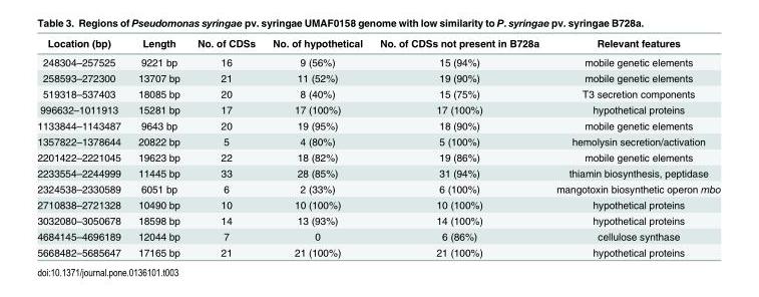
<table><thead><tr><td>Location (bp)</td><td>Length</td><td>No. of CDSs</td><td>No. of hypothetical</td><td>No. of CDSs not present in B728a</td><td>Relevant features</td></tr></thead><tbody><tr><td>248304–257525</td><td>9221 bp</td><td>16</td><td>9 (56%)</td><td>15 (94%)</td><td>mobile genetic elements</td></tr><tr><td>258593–272300</td><td>13707 bp</td><td>21</td><td>11 (52%)</td><td>19 (90%)</td><td>mobile genetic elements</td></tr><tr><td>519318–537403</td><td>18085 bp</td><td>20</td><td>8 (40%)</td><td>15 (75%)</td><td>T3 secretion components</td></tr><tr><td>996632–1011913</td><td>15281 bp</td><td>17</td><td>17 (100%)</td><td>17 (100%)</td><td>hypothetical proteins</td></tr><tr><td>1133844–1143487</td><td>9643 bp</td><td>20</td><td>19 (95%)</td><td>18 (90%)</td><td>mobile genetic elements</td></tr><tr><td>1357822–1378644</td><td>20822 bp</td><td>5</td><td>4 (80%)</td><td>5 (100%)</td><td>hemolysin secretion/activation</td></tr><tr><td>2201422–2221045</td><td>19623 bp</td><td>22</td><td>18 (82%)</td><td>19 (86%)</td><td>mobile genetic elements</td></tr><tr><td>2233554–2244999</td><td>11445 bp</td><td>33</td><td>28 (85%)</td><td>31 (94%)</td><td>thiamin biosynthesis, peptidase</td></tr><tr><td>2324538–2330589</td><td>6051 bp</td><td>6</td><td>2 (33%)</td><td>6 (100%)</td><td>mangotoxin biosynthetic operon mbo</td></tr><tr><td>2710838–2721328</td><td>10490 bp</td><td>10</td><td>10 (100%)</td><td>10 (100%)</td><td>hypothetical proteins</td></tr><tr><td>3032080–3050678</td><td>18598 bp</td><td>14</td><td>13 (93%)</td><td>14 (100%)</td><td>hypothetical proteins</td></tr><tr><td>4684145–4696189</td><td>12044 bp</td><td>7</td><td>0</td><td>6 (86%)</td><td>cellulose synthase</td></tr><tr><td>5668482–5685647</td><td>17165 bp</td><td>21</td><td>21 (100%)</td><td>21 (100%)</td><td>hypothetical proteins</td></tr></tbody></table>